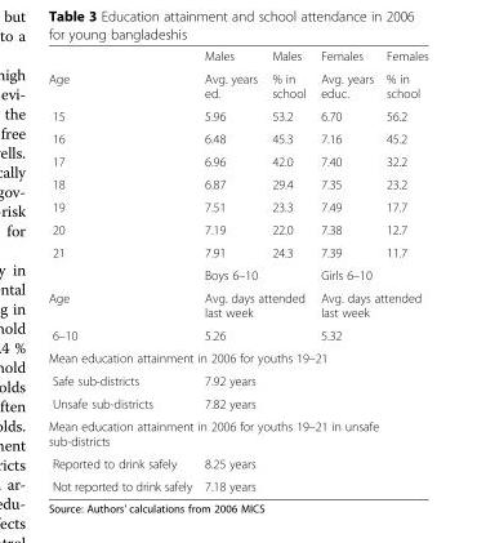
<table><thead><tr><td></td><td>Males</td><td>Males</td><td>Females</td><td>Females</td></tr></thead><tbody><tr><td>Age</td><td>Avg. years ed.</td><td>% in school</td><td>Avg. years educ.</td><td>% in school</td></tr><tr><td>15</td><td>5.96</td><td>53.2</td><td>6.70</td><td>56.2</td></tr><tr><td>16</td><td>6.48</td><td>45.3</td><td>7.16</td><td>45.2</td></tr><tr><td>17</td><td>6.96</td><td>42.0</td><td>7.40</td><td>32.2</td></tr><tr><td>18</td><td>6.87</td><td>29.4</td><td>7.35</td><td>23.2</td></tr><tr><td>19</td><td>7.51</td><td>23.3</td><td>7.49</td><td>17.7</td></tr><tr><td>20</td><td>7.19</td><td>22.0</td><td>7.38</td><td>12.7</td></tr><tr><td rowspan="2">21</td><td>7.91</td><td>24.3</td><td>7.39</td><td>11.7</td></tr><tr><td colspan="2">Boys 6–10</td><td colspan="2">Girls 6–10</td></tr><tr><td>Age</td><td colspan="2">Avg. days attended last week</td><td colspan="2">Avg. days attended last week</td></tr><tr><td>6–10</td><td colspan="2">5.26</td><td colspan="2">5.32</td></tr><tr><td colspan="5">Mean education attainment in 2006 for youths 19–21</td></tr><tr><td>Safe sub-districts</td><td colspan="4">7.92 years</td></tr><tr><td>Unsafe sub-districts</td><td colspan="4">7.82 years</td></tr><tr><td colspan="5">Mean education attainment in 2006 for youths 19–21 in unsafe sub-districts</td></tr><tr><td>Reported to drink safely</td><td colspan="4">8.25 years</td></tr><tr><td>Not reported to drink safely</td><td colspan="4">7.18 years</td></tr></tbody></table>